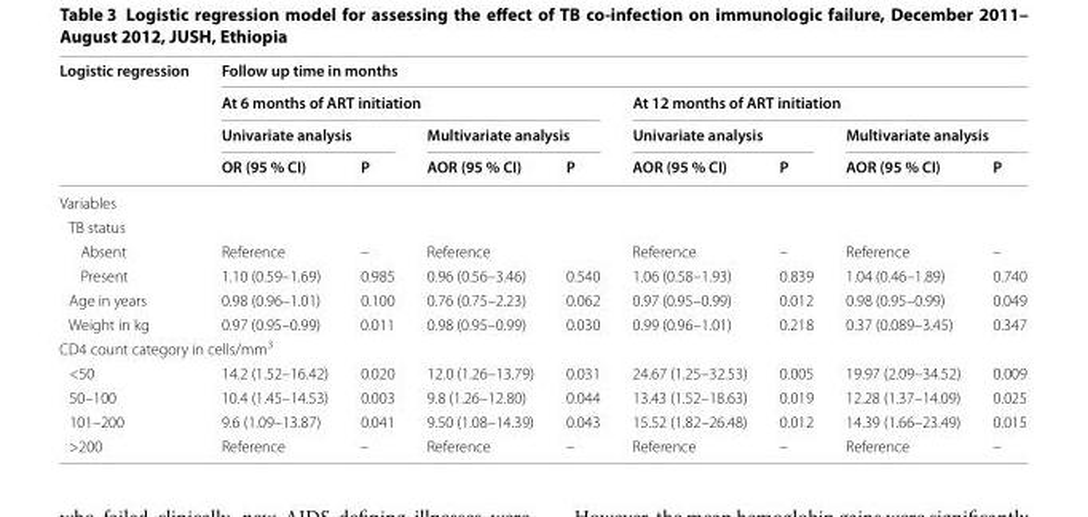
<table><thead><tr><td rowspan="4">Logistic regression</td><td colspan="8">Follow up time in months</td></tr><tr><td colspan="4">At 6 months of ART initiation</td><td colspan="4">At 12 months of ART initiation</td></tr><tr><td colspan="2">Univariate analysis</td><td colspan="2">Multivariate analysis</td><td colspan="2">Univariate analysis</td><td colspan="2">Multivariate analysis</td></tr><tr><td>OR (95 % CI)</td><td>P</td><td>AOR (95 % CI)</td><td>P</td><td>AOR (95 % CI)</td><td>P</td><td>AOR (95 % CI)</td><td>P</td></tr></thead><tbody><tr><td colspan="9">Variables</td></tr><tr><td colspan="9">TB status</td></tr><tr><td>Absent</td><td>Reference</td><td>–</td><td>Reference</td><td></td><td>Reference</td><td>–</td><td>Reference</td><td>–</td></tr><tr><td>Present</td><td>1.10 (0.59–1.69)</td><td>0.985</td><td>0.96 (0.56–3.46)</td><td>0.540</td><td>1.06 (0.58–1.93)</td><td>0.839</td><td>1.04 (0.46–1.89)</td><td>0.740</td></tr><tr><td>Age in years</td><td>0.98 (0.96–1.01)</td><td>0.100</td><td>0.76 (0.75–2.23)</td><td>0.062</td><td>0.97 (0.95–0.99)</td><td>0.012</td><td>0.98 (0.95–0.99)</td><td>0.049</td></tr><tr><td>Weight in kg</td><td>0.97 (0.95–0.99)</td><td>0.011</td><td>0.98 (0.95–0.99)</td><td>0.030</td><td>0.99 (0.96–1.01)</td><td>0.218</td><td>0.37 (0.089–3.45)</td><td>0.347</td></tr><tr><td colspan="9">CD4 count category in cells/mm<sup>3</sup></td></tr><tr><td>&lt;50</td><td>14.2 (1.52–16.42)</td><td>0.020</td><td>12.0 (1.26–13.79)</td><td>0.031</td><td>24.67 (1.25–32.53)</td><td>0.005</td><td>19.97 (2.09–34.52)</td><td>0.009</td></tr><tr><td>50–100</td><td>10.4 (1.45–14.53)</td><td>0.003</td><td>9.8 (1.26–12.80)</td><td>0.044</td><td>13.43 (1.52–18.63)</td><td>0.019</td><td>12.28 (1.37–14.09)</td><td>0.025</td></tr><tr><td>101–200</td><td>9.6 (1.09–13.87)</td><td>0.041</td><td>9.50 (1.08–14.39)</td><td>0.043</td><td>15.52 (1.82–26.48)</td><td>0.012</td><td>14.39 (1.66–23.49)</td><td>0.015</td></tr><tr><td>&gt;200</td><td>Reference</td><td>–</td><td>Reference</td><td>–</td><td>Reference</td><td>–</td><td>Reference</td><td>–</td></tr></tbody></table>